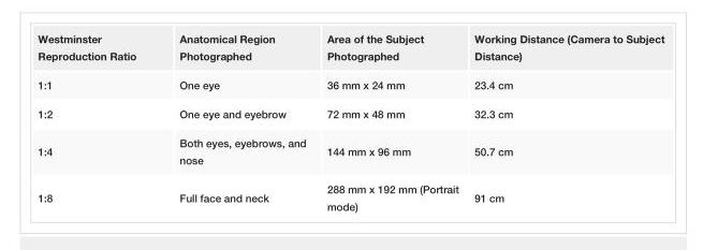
<table><tbody><tr><td>Westminster Reproduction Ratio</td><td>Anatomical Region Photographed</td><td>Area of the Subject Photographed</td><td>Working Distance (Camera to Subject Distance)</td></tr><tr><td>1:1</td><td>One eye</td><td>36 mm x 24 mm</td><td>23.4 cm</td></tr><tr><td>1:2</td><td>One eye and eyebrow</td><td>72 mm x 48 mm</td><td>32.3 cm</td></tr><tr><td>1:4</td><td>Both eyes, eyebrows, and nose</td><td>144 mm x 96 mm</td><td>50.7 cm</td></tr><tr><td>1:8</td><td>Full face and neck</td><td>288 mm x 192 mm (Portrait mode)</td><td>91 cm</td></tr></tbody></table>